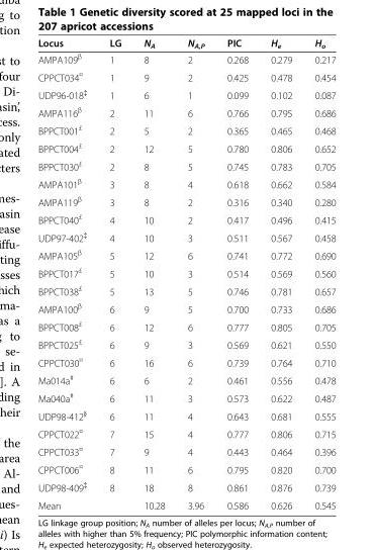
<table><thead><tr><td>Locus</td><td>LG</td><td>N<sub>A</sub></td><td>N<sub>A,P</sub></td><td>PIC</td><td>H<sub>e</sub></td><td>H<sub>o</sub></td></tr></thead><tbody><tr><td>AMPA109<sup>β</sup></td><td>1</td><td>8</td><td>2</td><td>0.268</td><td>0.279</td><td>0.217</td></tr><tr><td>CPPCT034<sup>¤</sup></td><td>1</td><td>9</td><td>2</td><td>0.425</td><td>0.478</td><td>0.454</td></tr><tr><td>UDP96-018<sup>‡</sup></td><td>1</td><td>6</td><td>1</td><td>0.099</td><td>0.102</td><td>0.087</td></tr><tr><td>AMPA116<sup>β</sup></td><td>2</td><td>11</td><td>6</td><td>0.766</td><td>0.795</td><td>0.686</td></tr><tr><td>BPPCT001<sup>£</sup></td><td>2</td><td>5</td><td>2</td><td>0.365</td><td>0.465</td><td>0.468</td></tr><tr><td>BPPCT004<sup>£</sup></td><td>2</td><td>12</td><td>5</td><td>0.780</td><td>0.806</td><td>0.652</td></tr><tr><td>BPPCT030<sup>£</sup></td><td>2</td><td>8</td><td>5</td><td>0.745</td><td>0.783</td><td>0.705</td></tr><tr><td>AMPA101<sup>β</sup></td><td>3</td><td>8</td><td>4</td><td>0.618</td><td>0.662</td><td>0.584</td></tr><tr><td>AMPA119<sup>β</sup></td><td>3</td><td>8</td><td>2</td><td>0.316</td><td>0.340</td><td>0.280</td></tr><tr><td>BPPCT040<sup>£</sup></td><td>4</td><td>10</td><td>2</td><td>0.417</td><td>0.496</td><td>0.415</td></tr><tr><td>UDP97-402<sup>‡</sup></td><td>4</td><td>10</td><td>3</td><td>0.511</td><td>0.567</td><td>0.458</td></tr><tr><td>AMPA105<sup>β</sup></td><td>5</td><td>12</td><td>6</td><td>0.741</td><td>0.772</td><td>0.690</td></tr><tr><td>BPPCT017<sup>£</sup></td><td>5</td><td>10</td><td>3</td><td>0.514</td><td>0.569</td><td>0.560</td></tr><tr><td>BPPCT038<sup>£</sup></td><td>5</td><td>13</td><td>5</td><td>0.746</td><td>0.781</td><td>0.657</td></tr><tr><td>AMPA100<sup>β</sup></td><td>6</td><td>9</td><td>5</td><td>0.700</td><td>0.733</td><td>0.686</td></tr><tr><td>BPPCT008<sup>£</sup></td><td>6</td><td>12</td><td>6</td><td>0.777</td><td>0.805</td><td>0.705</td></tr><tr><td>BPPCT025<sup>£</sup></td><td>6</td><td>9</td><td>3</td><td>0.569</td><td>0.621</td><td>0.550</td></tr><tr><td>CPPCT030<sup>¤</sup></td><td>6</td><td>16</td><td>6</td><td>0.739</td><td>0.764</td><td>0.710</td></tr><tr><td>Ma014a<sup>#</sup></td><td>6</td><td>6</td><td>2</td><td>0.461</td><td>0.556</td><td>0.478</td></tr><tr><td>Ma040a<sup>#</sup></td><td>6</td><td>11</td><td>3</td><td>0.573</td><td>0.622</td><td>0.487</td></tr><tr><td>UDP98-412<sup>§</sup></td><td>6</td><td>11</td><td>4</td><td>0.643</td><td>0.681</td><td>0.555</td></tr><tr><td>CPPCT022<sup>¤</sup></td><td>7</td><td>15</td><td>4</td><td>0.777</td><td>0.806</td><td>0.715</td></tr><tr><td>CPPCT033<sup>¤</sup></td><td>7</td><td>9</td><td>4</td><td>0.443</td><td>0.464</td><td>0.396</td></tr><tr><td>CPPCT006<sup>¤</sup></td><td>8</td><td>11</td><td>6</td><td>0.795</td><td>0.820</td><td>0.700</td></tr><tr><td>UDP98-409<sup>‡</sup></td><td>8</td><td>18</td><td>8</td><td>0.861</td><td>0.876</td><td>0.739</td></tr><tr><td>Mean</td><td></td><td>10.28</td><td>3.96</td><td>0.586</td><td>0.626</td><td>0.545</td></tr></tbody></table>